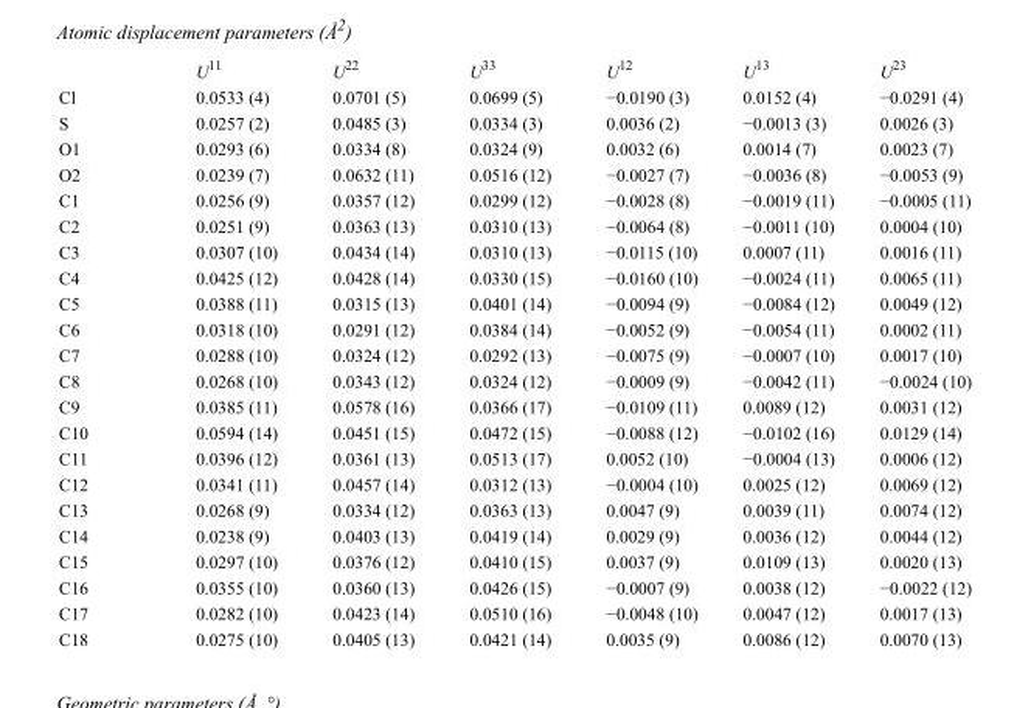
<table><thead><tr><td></td><td>U<sup>11</sup></td><td>U<sup>22</sup></td><td>U<sup>33</sup></td><td>U<sup>12</sup></td><td>U<sup>13</sup></td><td>U<sup>23</sup></td></tr></thead><tbody><tr><td>Cl</td><td>0.0533 (4)</td><td>0.0701 (5)</td><td>0.0699 (5)</td><td>−0.0190 (3)</td><td>0.0152 (4)</td><td>−0.0291 (4)</td></tr><tr><td>S</td><td>0.0257 (2)</td><td>0.0485 (3)</td><td>0.0334 (3)</td><td>0.0036 (2)</td><td>−0.0013 (3)</td><td>0.0026 (3)</td></tr><tr><td>O1</td><td>0.0293 (6)</td><td>0.0334 (8)</td><td>0.0324 (9)</td><td>0.0032 (6)</td><td>0.0014 (7)</td><td>0.0023 (7)</td></tr><tr><td>O2</td><td>0.0239 (7)</td><td>0.0632 (11)</td><td>0.0516 (12)</td><td>−0.0027 (7)</td><td>−0.0036 (8)</td><td>−0.0053 (9)</td></tr><tr><td>C1</td><td>0.0256 (9)</td><td>0.0357 (12)</td><td>0.0299 (12)</td><td>−0.0028 (8)</td><td>−0.0019 (11)</td><td>−0.0005 (11)</td></tr><tr><td>C2</td><td>0.0251 (9)</td><td>0.0363 (13)</td><td>0.0310 (13)</td><td>−0.0064 (8)</td><td>−0.0011 (10)</td><td>0.0004 (10)</td></tr><tr><td>C3</td><td>0.0307 (10)</td><td>0.0434 (14)</td><td>0.0310 (13)</td><td>−0.0115 (10)</td><td>0.0007 (11)</td><td>0.0016 (11)</td></tr><tr><td>C4</td><td>0.0425 (12)</td><td>0.0428 (14)</td><td>0.0330 (15)</td><td>−0.0160 (10)</td><td>−0.0024 (11)</td><td>0.0065 (11)</td></tr><tr><td>C5</td><td>0.0388 (11)</td><td>0.0315 (13)</td><td>0.0401 (14)</td><td>−0.0094 (9)</td><td>−0.0084 (12)</td><td>0.0049 (12)</td></tr><tr><td>C6</td><td>0.0318 (10)</td><td>0.0291 (12)</td><td>0.0384 (14)</td><td>−0.0052 (9)</td><td>−0.0054 (11)</td><td>0.0002 (11)</td></tr><tr><td>C7</td><td>0.0288 (10)</td><td>0.0324 (12)</td><td>0.0292 (13)</td><td>−0.0075 (9)</td><td>−0.0007 (10)</td><td>0.0017 (10)</td></tr><tr><td>C8</td><td>0.0268 (10)</td><td>0.0343 (12)</td><td>0.0324 (12)</td><td>−0.0009 (9)</td><td>−0.0042 (11)</td><td>−0.0024 (10)</td></tr><tr><td>C9</td><td>0.0385 (11)</td><td>0.0578 (16)</td><td>0.0366 (17)</td><td>−0.0109 (11)</td><td>0.0089 (12)</td><td>0.0031 (12)</td></tr><tr><td>C10</td><td>0.0594 (14)</td><td>0.0451 (15)</td><td>0.0472 (15)</td><td>−0.0088 (12)</td><td>−0.0102 (16)</td><td>0.0129 (14)</td></tr><tr><td>C11</td><td>0.0396 (12)</td><td>0.0361 (13)</td><td>0.0513 (17)</td><td>0.0052 (10)</td><td>−0.0004 (13)</td><td>0.0006 (12)</td></tr><tr><td>C12</td><td>0.0341 (11)</td><td>0.0457 (14)</td><td>0.0312 (13)</td><td>−0.0004 (10)</td><td>0.0025 (12)</td><td>0.0069 (12)</td></tr><tr><td>C13</td><td>0.0268 (9)</td><td>0.0334 (12)</td><td>0.0363 (13)</td><td>0.0047 (9)</td><td>0.0039 (11)</td><td>0.0074 (12)</td></tr><tr><td>C14</td><td>0.0238 (9)</td><td>0.0403 (13)</td><td>0.0419 (14)</td><td>0.0029 (9)</td><td>0.0036 (12)</td><td>0.0044 (12)</td></tr><tr><td>C15</td><td>0.0297 (10)</td><td>0.0376 (12)</td><td>0.0410 (15)</td><td>0.0037 (9)</td><td>0.0109 (13)</td><td>0.0020 (13)</td></tr><tr><td>C16</td><td>0.0355 (10)</td><td>0.0360 (13)</td><td>0.0426 (15)</td><td>−0.0007 (9)</td><td>0.0038 (12)</td><td>−0.0022 (12)</td></tr><tr><td>C17</td><td>0.0282 (10)</td><td>0.0423 (14)</td><td>0.0510 (16)</td><td>−0.0048 (10)</td><td>0.0047 (12)</td><td>0.0017 (13)</td></tr><tr><td>C18</td><td>0.0275 (10)</td><td>0.0405 (13)</td><td>0.0421 (14)</td><td>0.0035 (9)</td><td>0.0086 (12)</td><td>0.0070 (13)</td></tr></tbody></table>